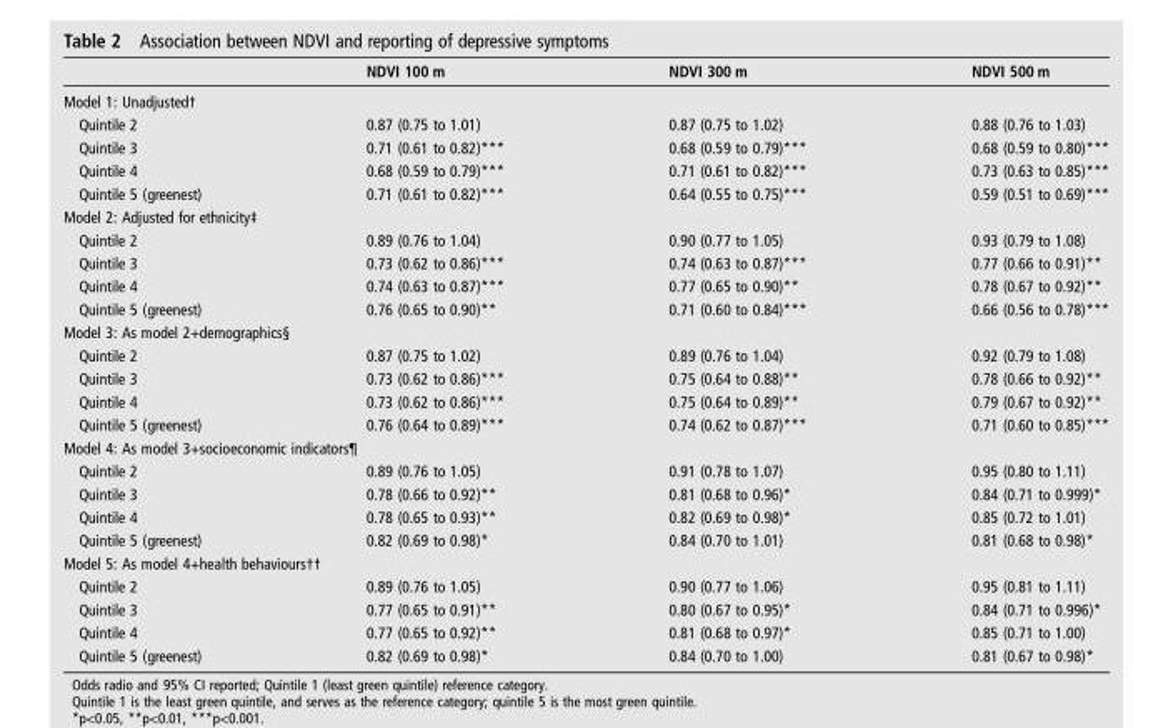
<table><thead><tr><td></td><td>NDVI 100 m</td><td>NDVI 300 m</td><td>NDVI 500 m</td></tr></thead><tbody><tr><td colspan="4">Model 1: Unadjusted†</td></tr><tr><td>Quintile 2</td><td>0.87 (0.75 to 1.01)</td><td>0.87 (0.75 to 1.02)</td><td>0.88 (0.76 to 1.03)</td></tr><tr><td>Quintile 3</td><td>0.71 (0.61 to 0.82)***</td><td>0.68 (0.59 to 0.79)***</td><td>0.68 (0.59 to 0.80)***</td></tr><tr><td>Quintile 4</td><td>0.68 (0.59 to 0.79)***</td><td>0.71 (0.61 to 0.82)***</td><td>0.73 (0.63 to 0.85)***</td></tr><tr><td>Quintile 5 (greenest)</td><td>0.71 (0.61 to 0.82)***</td><td>0.64 (0.55 to 0.75)***</td><td>0.59 (0.51 to 0.69)***</td></tr><tr><td colspan="4">Model 2: Adjusted for ethnicity‡</td></tr><tr><td>Quintile 2</td><td>0.89 (0.76 to 1.04)</td><td>0.90 (0.77 to 1.05)</td><td>0.93 (0.79 to 1.08)</td></tr><tr><td>Quintile 3</td><td>0.73 (0.62 to 0.86)***</td><td>0.74 (0.63 to 0.87)***</td><td>0.77 (0.66 to 0.91)**</td></tr><tr><td>Quintile 4</td><td>0.74 (0.63 to 0.87)***</td><td>0.77 (0.65 to 0.90)**</td><td>0.78 (0.67 to 0.92)**</td></tr><tr><td>Quintile 5 (greenest)</td><td>0.76 (0.65 to 0.90)**</td><td>0.71 (0.60 to 0.84)***</td><td>0.66 (0.56 to 0.78)***</td></tr><tr><td colspan="4">Model 3: As model 2+demographics§</td></tr><tr><td>Quintile 2</td><td>0.87 (0.75 to 1.02)</td><td>0.89 (0.76 to 1.04)</td><td>0.92 (0.79 to 1.08)</td></tr><tr><td>Quintile 3</td><td>0.73 (0.62 to 0.86)***</td><td>0.75 (0.64 to 0.88)**</td><td>0.78 (0.66 to 0.92)**</td></tr><tr><td>Quintile 4</td><td>0.73 (0.62 to 0.86)***</td><td>0.75 (0.64 to 0.89)**</td><td>0.79 (0.67 to 0.92)**</td></tr><tr><td>Quintile 5 (greenest)</td><td>0.76 (0.64 to 0.89)***</td><td>0.74 (0.62 to 0.87)***</td><td>0.71 (0.60 to 0.85)***</td></tr><tr><td colspan="4">Model 4: As model 3+socioeconomic indicators¶</td></tr><tr><td>Quintile 2</td><td>0.89 (0.76 to 1.05)</td><td>0.91 (0.78 to 1.07)</td><td>0.95 (0.80 to 1.11)</td></tr><tr><td>Quintile 3</td><td>0.78 (0.66 to 0.92)**</td><td>0.81 (0.68 to 0.96)*</td><td>0.84 (0.71 to 0.999)*</td></tr><tr><td>Quintile 4</td><td>0.78 (0.65 to 0.93)**</td><td>0.82 (0.69 to 0.98)*</td><td>0.85 (0.72 to 1.01)</td></tr><tr><td>Quintile 5 (greenest)</td><td>0.82 (0.69 to 0.98)*</td><td>0.84 (0.70 to 1.01)</td><td>0.81 (0.68 to 0.98)*</td></tr><tr><td colspan="4">Model 5: As model 4+health behaviours††</td></tr><tr><td>Quintile 2</td><td>0.89 (0.76 to 1.05)</td><td>0.90 (0.77 to 1.06)</td><td>0.95 (0.81 to 1.11)</td></tr><tr><td>Quintile 3</td><td>0.77 (0.65 to 0.91)**</td><td>0.80 (0.67 to 0.95)*</td><td>0.84 (0.71 to 0.996)*</td></tr><tr><td>Quintile 4</td><td>0.77 (0.65 to 0.92)**</td><td>0.81 (0.68 to 0.97)*</td><td>0.85 (0.71 to 1.00)</td></tr><tr><td>Quintile 5 (greenest)</td><td>0.82 (0.69 to 0.98)*</td><td>0.84 (0.70 to 1.00)</td><td>0.81 (0.67 to 0.98)*</td></tr></tbody></table>